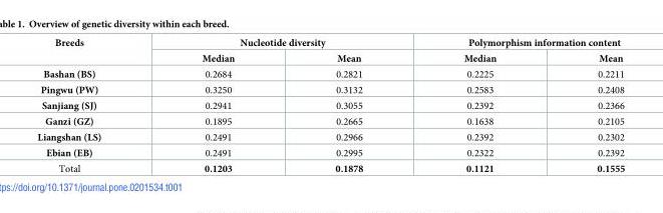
<table><thead><tr><td rowspan="2">Breeds</td><td colspan="2">Nucleotide diversity</td><td colspan="2">Polymorphism information content</td></tr><tr><td>Median</td><td>Mean</td><td>Median</td><td>Mean</td></tr></thead><tbody><tr><td>Bashan (BS)</td><td>0.2684</td><td>0.2821</td><td>0.2225</td><td>0.2211</td></tr><tr><td>Pingwu (PW)</td><td>0.3250</td><td>0.3132</td><td>0.2583</td><td>0.2408</td></tr><tr><td>Sanjiang (SJ)</td><td>0.2941</td><td>0.3055</td><td>0.2392</td><td>0.2366</td></tr><tr><td>Ganzi (GZ)</td><td>0.1895</td><td>0.2665</td><td>0.1638</td><td>0.2105</td></tr><tr><td>Liangshan (LS)</td><td>0.2491</td><td>0.2966</td><td>0.2392</td><td>0.2302</td></tr><tr><td>Ebian (EB)</td><td>0.2491</td><td>0.2995</td><td>0.2322</td><td>0.2392</td></tr><tr><td>Total</td><td>0.1203</td><td>0.1878</td><td>0.1121</td><td>0.1555</td></tr></tbody></table>